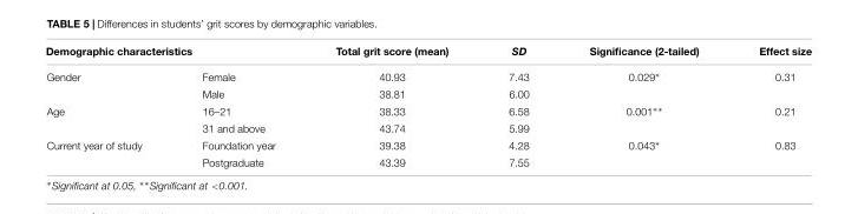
<table><thead><tr><td colspan="2">Demographic characteristics</td><td rowspan="2">Total grit score (mean) 40.93</td><td rowspan="2">SD 7.43</td><td rowspan="2">Significance (2-tailed) 0.029∗</td><td rowspan="2">Effect size 0.31</td></tr><tr><td>Gender</td><td>Female</td></tr></thead><tbody><tr><td></td><td>Male</td><td>38.81</td><td>6.00</td><td></td><td></td></tr><tr><td rowspan="2">Age</td><td>16–21</td><td>38.33</td><td>6.58</td><td>0.001∗∗</td><td>0.21</td></tr><tr><td>31 and above</td><td>43.74</td><td>5.99</td><td></td><td></td></tr><tr><td rowspan="2">Current year of study</td><td>Foundation year</td><td>39.38</td><td>4.28</td><td>0.043∗</td><td>0.83</td></tr><tr><td>Postgraduate</td><td>43.39</td><td>7.55</td><td></td><td></td></tr></tbody></table>